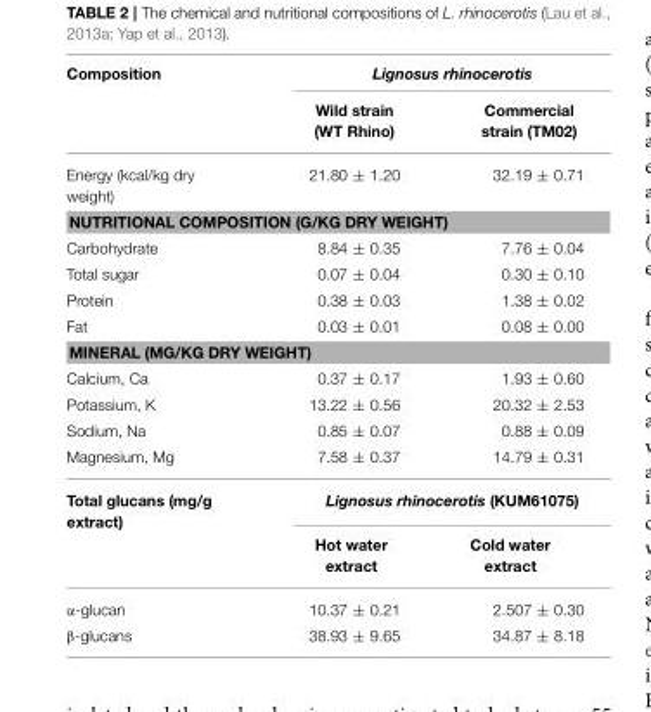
<table><thead><tr><td rowspan="2">Composition</td><td colspan="2">Lignosus rhinocerotis</td></tr><tr><td>Wild strain (WT Rhino)</td><td>Commercial strain (TM02)</td></tr></thead><tbody><tr><td>Energy (kcal/kg dry weight)</td><td>21.80 ± 1.20</td><td>32.19 ± 0.71</td></tr><tr><td colspan="3">NUTRITIONAL COMPOSITION (G/KG DRY WEIGHT)</td></tr><tr><td>Carbohydrate</td><td>8.84 ± 0.35</td><td>7.76 ± 0.04</td></tr><tr><td>Total sugar</td><td>0.07 ± 0.04</td><td>0.30 ± 0.10</td></tr><tr><td>Protein</td><td>0.38 ± 0.03</td><td>1.38 ± 0.02</td></tr><tr><td>Fat</td><td>0.03 ± 0.01</td><td>0.08 ± 0.00</td></tr><tr><td colspan="3">MINERAL (MG/KG DRY WEIGHT)</td></tr><tr><td>Calcium, Ca</td><td>0.37 ± 0.17</td><td>1.93 ± 0.60</td></tr><tr><td>Potassium, K</td><td>13.22 ± 0.56</td><td>20.32 ± 2.53</td></tr><tr><td>Sodium, Na</td><td>0.85 ± 0.07</td><td>0.88 ± 0.09</td></tr><tr><td>Magnesium, Mg</td><td>7.58 ± 0.37</td><td>14.79 ± 0.31</td></tr><tr><td rowspan="2">Total glucans (mg/g extract)</td><td colspan="2">Lignosus rhinocerotis (KUM61075)</td></tr><tr><td>Hot water extract</td><td>Cold water extract</td></tr><tr><td>α-glucan</td><td>10.37 ± 0.21</td><td>2.507 ± 0.30</td></tr><tr><td>β-glucans</td><td>38.93 ± 9.65</td><td>34.87 ± 8.18</td></tr></tbody></table>